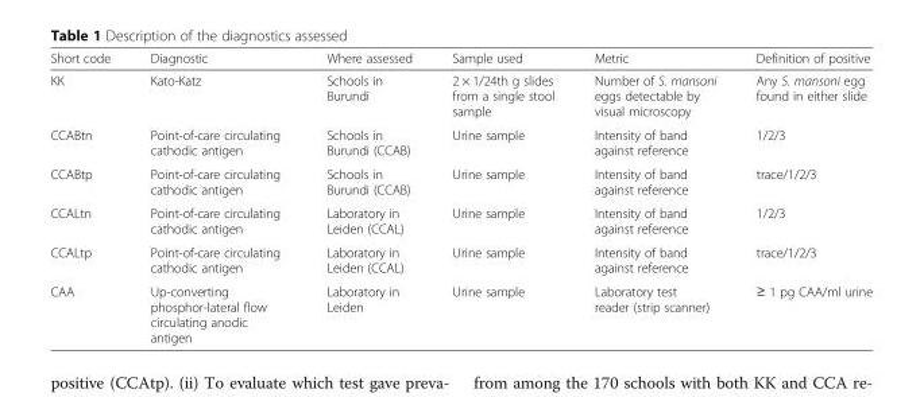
<table><thead><tr><td>Short code</td><td>Diagnostic</td><td>Where assessed</td><td>Sample used</td><td>Metric</td><td>Definition of positive</td></tr></thead><tbody><tr><td>KK</td><td>Kato-Katz</td><td>Schools in Burundi</td><td>2 × 1/24th g slides from a single stool sample</td><td>Number of S. mansoni eggs detectable by visual microscopy</td><td>Any S. mansoni egg found in either slide</td></tr><tr><td>CCABtn</td><td>Point-of-care circulating cathodic antigen</td><td>Schools in Burundi (CCAB)</td><td>Urine sample</td><td>Intensity of band against reference</td><td>1/2/3</td></tr><tr><td>CCABtp</td><td>Point-of-care circulating cathodic antigen</td><td>Schools in Burundi (CCAB)</td><td>Urine sample</td><td>Intensity of band against reference</td><td>trace/1/2/3</td></tr><tr><td>CCALtn</td><td>Point-of-care circulating cathodic antigen</td><td>Laboratory in Leiden (CCAL)</td><td>Urine sample</td><td>Intensity of band against reference</td><td>1/2/3</td></tr><tr><td>CCALtp</td><td>Point-of-care circulating cathodic antigen</td><td>Laboratory in Leiden (CCAL)</td><td>Urine sample</td><td>Intensity of band against reference</td><td>trace/1/2/3</td></tr><tr><td>CAA</td><td>Up-converting phosphor-lateral flow circulating anodic antigen</td><td>Laboratory in Leiden</td><td>Urine sample</td><td>Laboratory test reader (strip scanner)</td><td>≥ 1 pg CAA/ml urine</td></tr></tbody></table>